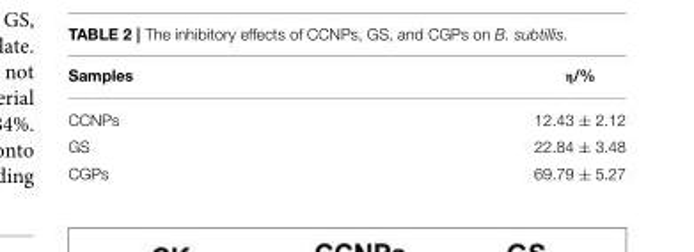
<table><thead><tr><td>Samples</td><td>η/%</td></tr></thead><tbody><tr><td>CCNPs</td><td>12.43 ± 2.12</td></tr><tr><td>GS</td><td>22.84 ± 3.48</td></tr><tr><td>CGPs</td><td>69.79 ± 5.27</td></tr></tbody></table>